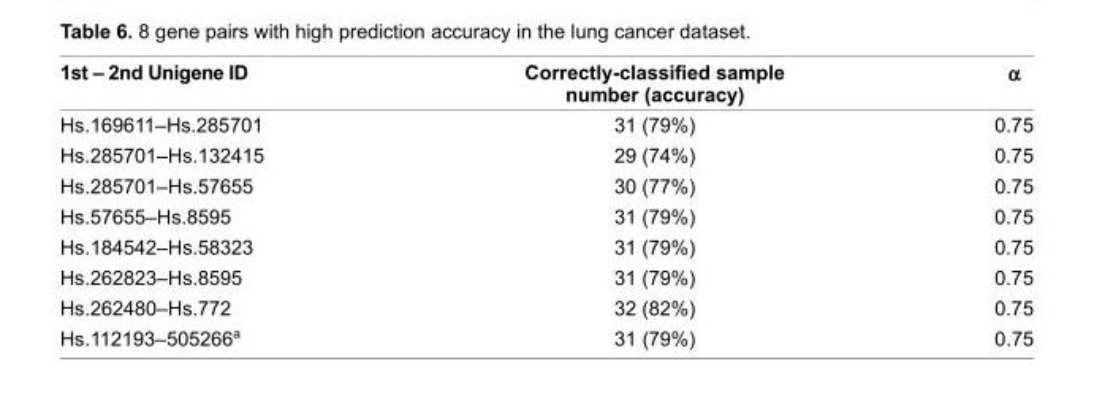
<table><thead><tr><td>1st – 2nd Unigene ID</td><td>Correctly-classifi ed sample number (accuracy)</td><td>α</td></tr></thead><tbody><tr><td>Hs.169611–Hs.285701</td><td>31 (79%)</td><td>0.75</td></tr><tr><td>Hs.285701–Hs.132415</td><td>29 (74%)</td><td>0.75</td></tr><tr><td>Hs.285701–Hs.57655</td><td>30 (77%)</td><td>0.75</td></tr><tr><td>Hs.57655–Hs.8595</td><td>31 (79%)</td><td>0.75</td></tr><tr><td>Hs.184542–Hs.58323</td><td>31 (79%)</td><td>0.75</td></tr><tr><td>Hs.262823–Hs.8595</td><td>31 (79%)</td><td>0.75</td></tr><tr><td>Hs.262480–Hs.772</td><td>32 (82%)</td><td>0.75</td></tr><tr><td>Hs.112193–505266<sup>a</sup></td><td>31 (79%)</td><td>0.75</td></tr></tbody></table>